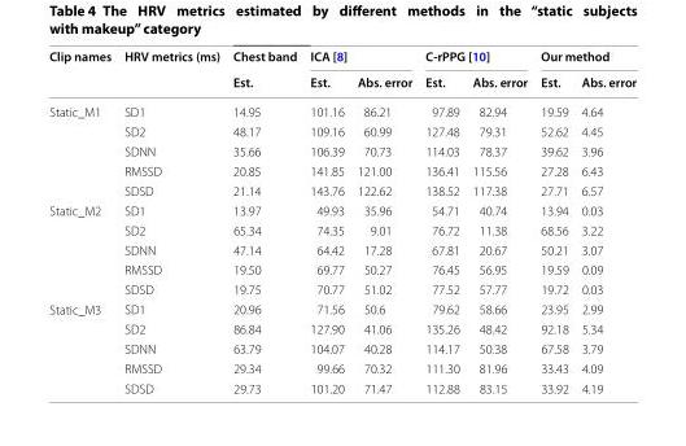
<table><thead><tr><td rowspan="2">Clip names</td><td rowspan="2">HRV metrics (ms)</td><td rowspan="2">Chest band Est.</td><td colspan="2">ICA [8]</td><td colspan="2">C‑rPPG [10]</td><td colspan="2">Our method</td></tr><tr><td>Est.</td><td>Abs. error</td><td>Est.</td><td>Abs. error</td><td>Est.</td><td>Abs. error</td></tr></thead><tbody><tr><td rowspan="5">Static_M1</td><td>SD1</td><td>14.95</td><td>101.16</td><td>86.21</td><td>97.89</td><td>82.94</td><td>19.59</td><td>4.64</td></tr><tr><td>SD2</td><td>48.17</td><td>109.16</td><td>60.99</td><td>127.48</td><td>79.31</td><td>52.62</td><td>4.45</td></tr><tr><td>SDNN</td><td>35.66</td><td>106.39</td><td>70.73</td><td>114.03</td><td>78.37</td><td>39.62</td><td>3.96</td></tr><tr><td>RMSSD</td><td>20.85</td><td>141.85</td><td>121.00</td><td>136.41</td><td>115.56</td><td>27.28</td><td>6.43</td></tr><tr><td>SDSD</td><td>21.14</td><td>143.76</td><td>122.62</td><td>138.52</td><td>117.38</td><td>27.71</td><td>6.57</td></tr><tr><td rowspan="5">Static_M2</td><td>SD1</td><td>13.97</td><td>49.93</td><td>35.96</td><td>54.71</td><td>40.74</td><td>13.94</td><td>0.03</td></tr><tr><td>SD2</td><td>65.34</td><td>74.35</td><td>9.01</td><td>76.72</td><td>11.38</td><td>68.56</td><td>3.22</td></tr><tr><td>SDNN</td><td>47.14</td><td>64.42</td><td>17.28</td><td>67.81</td><td>20.67</td><td>50.21</td><td>3.07</td></tr><tr><td>RMSSD</td><td>19.50</td><td>69.77</td><td>50.27</td><td>76.45</td><td>56.95</td><td>19.59</td><td>0.09</td></tr><tr><td>SDSD</td><td>19.75</td><td>70.77</td><td>51.02</td><td>77.52</td><td>57.77</td><td>19.72</td><td>0.03</td></tr><tr><td rowspan="5">Static_M3</td><td>SD1</td><td>20.96</td><td>71.56</td><td>50.6</td><td>79.62</td><td>58.66</td><td>23.95</td><td>2.99</td></tr><tr><td>SD2</td><td>86.84</td><td>127.90</td><td>41.06</td><td>135.26</td><td>48.42</td><td>92.18</td><td>5.34</td></tr><tr><td>SDNN</td><td>63.79</td><td>104.07</td><td>40.28</td><td>114.17</td><td>50.38</td><td>67.58</td><td>3.79</td></tr><tr><td>RMSSD</td><td>29.34</td><td>99.66</td><td>70.32</td><td>111.30</td><td>81.96</td><td>33.43</td><td>4.09</td></tr><tr><td>SDSD</td><td>29.73</td><td>101.20</td><td>71.47</td><td>112.88</td><td>83.15</td><td>33.92</td><td>4.19</td></tr></tbody></table>